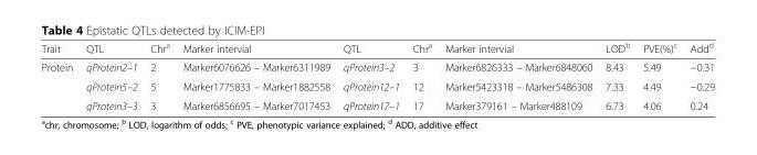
<table><thead><tr><td>Trait</td><td>QTL</td><td>Chr<sup>a</sup></td><td>Marker intervial</td><td>QTL</td><td>Chr<sup>a</sup></td><td>Marker intervial</td><td>LOD<sup>b</sup></td><td>PVE(%)<sup>c</sup></td><td>Add<sup>d</sup></td></tr></thead><tbody><tr><td rowspan="3">Protein</td><td>qProtein2–1</td><td>2</td><td>Marker6076626 – Marker6311989</td><td>qProtein3–2</td><td>3</td><td>Marker6826333 – Marker6848060</td><td>8.43</td><td>5.49</td><td>−0.31</td></tr><tr><td>qProtein5–2</td><td>5</td><td>Marker1775833 – Marker1882558</td><td>qProtein12–1</td><td>12</td><td>Marker5423318 – Marker5486308</td><td>7.33</td><td>4.49</td><td>−0.29</td></tr><tr><td>qProtein3–3</td><td>3</td><td>Marker6856695 – Marker7017453</td><td>qProtein17–1</td><td>17</td><td>Marker379161 – Marker488109</td><td>6.73</td><td>4.06</td><td>0.24</td></tr></tbody></table>